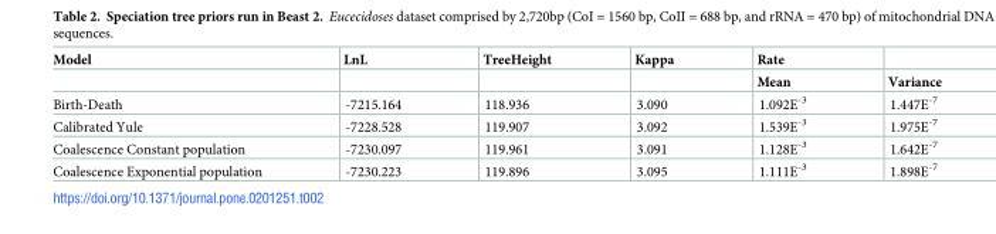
<table><thead><tr><td rowspan="2">Model</td><td rowspan="2">LnL</td><td rowspan="2">TreeHeight</td><td rowspan="2">Kappa</td><td rowspan="2">Rate Mean</td><td rowspan="2">Variance</td></tr><tr></tr></thead><tbody><tr><td>Birth-Death</td><td>-7215.164</td><td>118.936</td><td>3.090</td><td>1.092E<sup>-3</sup></td><td>1.447E<sup>-7</sup></td></tr><tr><td>Calibrated Yule</td><td>-7228.528</td><td>119.907</td><td>3.092</td><td>1.539E<sup>-3</sup></td><td>1.975E<sup>-7</sup></td></tr><tr><td>Coalescence Constant population</td><td>-7230.097</td><td>119.961</td><td>3.091</td><td>1.128E<sup>-3</sup></td><td>1.642E<sup>-7</sup></td></tr><tr><td>Coalescence Exponential population</td><td>-7230.223</td><td>119.896</td><td>3.095</td><td>1.111E<sup>-3</sup></td><td>1.898E<sup>-7</sup></td></tr></tbody></table>